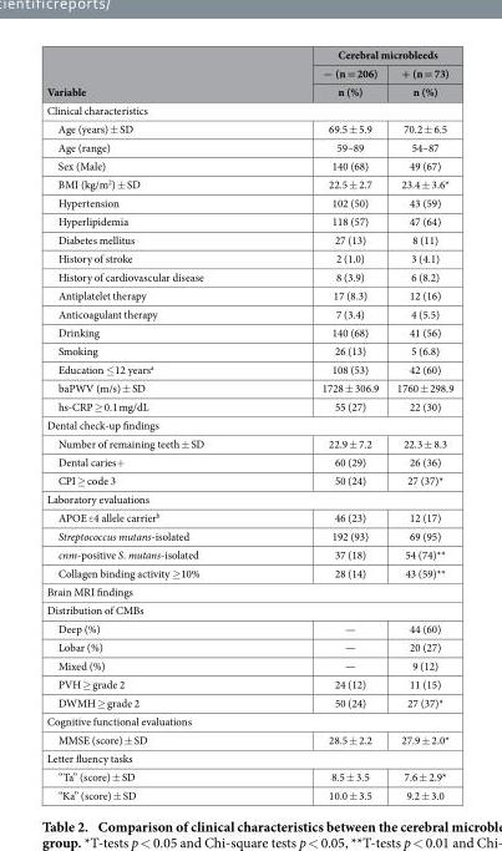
<table><thead><tr><td rowspan="3">Variable</td><td colspan="2">Cerebral microbleeds</td></tr><tr><td rowspan="2">− (n = 206) n (%)</td><td rowspan="2">+ (n = 73) n (%)</td></tr><tr></tr></thead><tbody><tr><td colspan="3">Clinical characteristics</td></tr><tr><td>Age (years) ± SD</td><td>69.5 ± 5.9</td><td>70.2 ± 6.5</td></tr><tr><td>Age (range)</td><td>59–89</td><td>54–87</td></tr><tr><td>Sex (Male)</td><td>140 (68)</td><td>49 (67)</td></tr><tr><td>BMI (kg/m<sup>2</sup>) ± SD</td><td>22.5 ± 2.7</td><td>23.4 ± 3.6*</td></tr><tr><td>Hypertension</td><td>102 (50)</td><td>43 (59)</td></tr><tr><td>Hyperlipidemia</td><td>118 (57)</td><td>47 (64)</td></tr><tr><td>Diabetes mellitus</td><td>27 (13)</td><td>8 (11)</td></tr><tr><td>History of stroke</td><td>2 (1.0)</td><td>3 (4.1)</td></tr><tr><td>History of cardiovascular disease</td><td>8 (3.9)</td><td>6 (8.2)</td></tr><tr><td>Antiplatelet therapy</td><td>17 (8.3)</td><td>12 (16)</td></tr><tr><td>Anticoagulant therapy</td><td>7 (3.4)</td><td>4 (5.5)</td></tr><tr><td>Drinking</td><td>140 (68)</td><td>41 (56)</td></tr><tr><td>Smoking</td><td>26 (13)</td><td>5 (6.8)</td></tr><tr><td>Education ≤ 12 years<sup>a</sup></td><td>108 (53)</td><td>42 (60)</td></tr><tr><td>baPWV (m/s) ± SD</td><td>1728 ± 306.9</td><td>1760 ± 298.9</td></tr><tr><td>hs-CRP ≥ 0.1 mg/dL</td><td>55 (27)</td><td>22 (30)</td></tr><tr><td colspan="3">Dental check-up findings</td></tr><tr><td>Number of remaining teeth ± SD</td><td>22.9 ± 7.2</td><td>22.3 ± 8.3</td></tr><tr><td>Dental caries+</td><td>60 (29)</td><td>26 (36)</td></tr><tr><td>CPI ≥ code 3</td><td>50 (24)</td><td>27 (37)*</td></tr><tr><td colspan="3">Laboratory evaluations</td></tr><tr><td>APOE ε 4 allele carrier<sup>b</sup></td><td>46 (23)</td><td>12 (17)</td></tr><tr><td>Streptococcus mutans-isolated</td><td>192 (93)</td><td>69 (95)</td></tr><tr><td>cnm-positive S. mutans-isolated</td><td>37 (18)</td><td>54 (74)**</td></tr><tr><td>Collagen binding activity ≥ 10%</td><td>28 (14)</td><td>43 (59)**</td></tr><tr><td colspan="3">Brain MRI findings</td></tr><tr><td colspan="3">Distribution of CMBs</td></tr><tr><td>Deep (%)</td><td>—</td><td>44 (60)</td></tr><tr><td>Lobar (%)</td><td>—</td><td>20 (27)</td></tr><tr><td>Mixed (%)</td><td>—</td><td>9 (12)</td></tr><tr><td>PVH ≥ grade 2</td><td>24 (12)</td><td>11 (15)</td></tr><tr><td>DWMH ≥ grade 2</td><td>50 (24)</td><td>27 (37)*</td></tr><tr><td colspan="3">Cognitive functional evaluations</td></tr><tr><td>MMSE (score) ± SD</td><td>28.5 ± 2.2</td><td>27.9 ± 2.0*</td></tr><tr><td colspan="3">Letter fluency tasks</td></tr><tr><td>“Ta” (score) ± SD</td><td>8.5 ± 3.5</td><td>7.6 ± 2.9*</td></tr><tr><td>“Ka” (score) ± SD</td><td>10.0 ± 3.5</td><td>9.2 ± 3.0</td></tr></tbody></table>